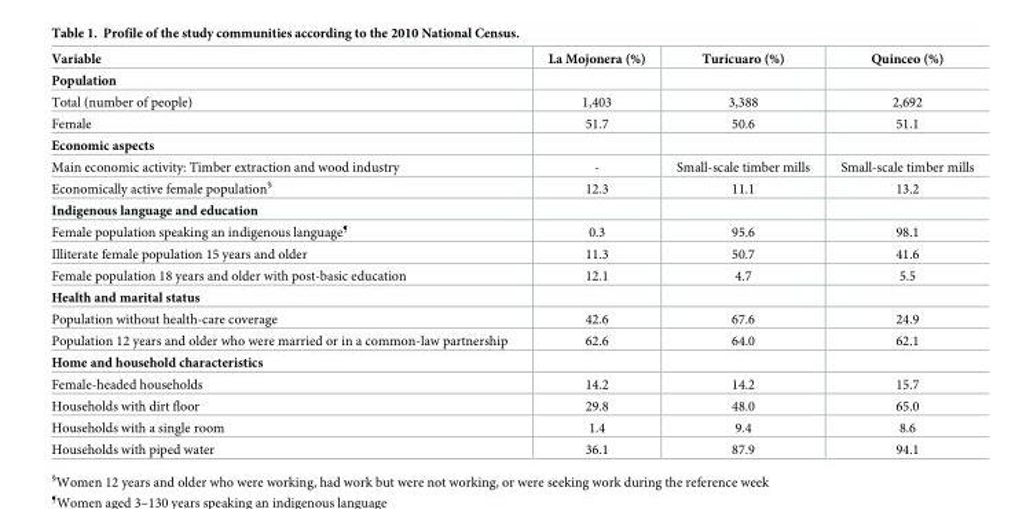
<table><thead><tr><td>Variable</td><td>La Mojonera (%)</td><td>Turicuaro (%)</td><td>Quinceo (%)</td></tr></thead><tbody><tr><td colspan="4">Population</td></tr><tr><td>Total (number of people)</td><td>1,403</td><td>3,388</td><td>2,692</td></tr><tr><td>Female</td><td>51.7</td><td>50.6</td><td>51.1</td></tr><tr><td colspan="4">Economic aspects</td></tr><tr><td>Main economic activity: Timber extraction and wood industry</td><td>-</td><td>Small-scale timber mills</td><td>Small-scale timber mills</td></tr><tr><td>Economically active female population<sup>§</sup></td><td>12.3</td><td>11.1</td><td>13.2</td></tr><tr><td colspan="4">Indigenous language and education</td></tr><tr><td>Female population speaking an indigenous language<sup>¶</sup></td><td>0.3</td><td>95.6</td><td>98.1</td></tr><tr><td>Illiterate female population 15 years and older</td><td>11.3</td><td>50.7</td><td>41.6</td></tr><tr><td>Female population 18 years and older with post-basic education</td><td>12.1</td><td>4.7</td><td>5.5</td></tr><tr><td colspan="4">Health and marital status</td></tr><tr><td>Population without health-care coverage</td><td>42.6</td><td>67.6</td><td>24.9</td></tr><tr><td>Population 12 years and older who were married or in a common-law partnership</td><td>62.6</td><td>64.0</td><td>62.1</td></tr><tr><td colspan="4">Home and household characteristics</td></tr><tr><td>Female-headed households</td><td>14.2</td><td>14.2</td><td>15.7</td></tr><tr><td>Households with dirt floor</td><td>29.8</td><td>48.0</td><td>65.0</td></tr><tr><td>Households with a single room</td><td>1.4</td><td>9.4</td><td>8.6</td></tr><tr><td>Households with piped water</td><td>36.1</td><td>87.9</td><td>94.1</td></tr></tbody></table>